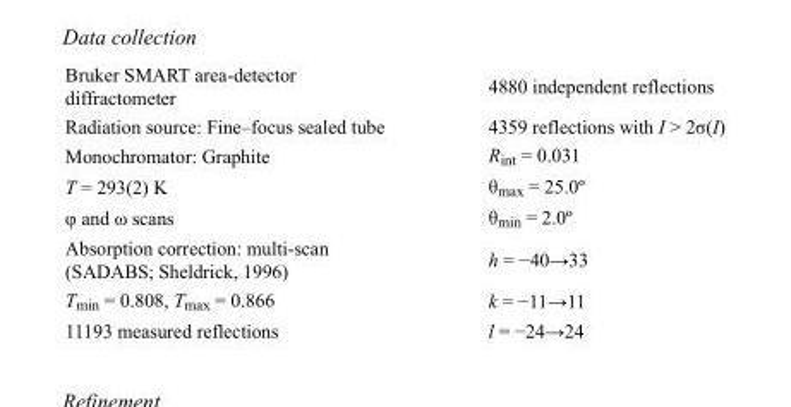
<table><tbody><tr><td>Bruker SMART area-detector diffractometer</td><td>4880 independent reflections</td></tr><tr><td>Radiation source: Fine–focus sealed tube</td><td>4359 reflections with I &gt; 2σ(I)</td></tr><tr><td>Monochromator: Graphite</td><td>R<sub>int</sub> = 0.031</td></tr><tr><td>T = 293(2) K</td><td>θ<sub>max</sub> = 25.0º</td></tr><tr><td>φ and ω scans</td><td>θ<sub>min</sub> = 2.0º</td></tr><tr><td>Absorption correction: multi-scan (SADABS; Sheldrick, 1996)</td><td>h = −40→33</td></tr><tr><td>T<sub>min</sub> = 0.808, T<sub>max</sub> = 0.866</td><td>k = −11→11</td></tr><tr><td>11193 measured reflections</td><td>l = −24→24</td></tr></tbody></table>